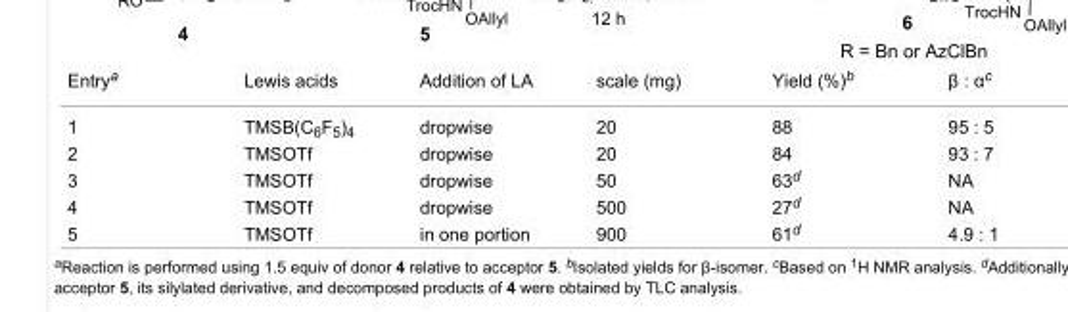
<table><tbody><tr><td>Entry<sup>a</sup></td><td>Lewis acids</td><td>Addition of LA</td><td>scale (mg)</td><td>Yield (%)<sup>b</sup></td><td>β : α<sup>c</sup></td></tr><tr><td>1</td><td>TMSB(C<sub>6</sub>F<sub>5</sub>)<sub>4</sub></td><td>dropwise</td><td>20</td><td>88</td><td>95 : 5</td></tr><tr><td>2</td><td>TMSOTf</td><td>dropwise</td><td>20</td><td>84</td><td>93 : 7</td></tr><tr><td>3</td><td>TMSOTf</td><td>dropwise</td><td>50</td><td>63<sup>d</sup></td><td>NA</td></tr><tr><td>4</td><td>TMSOTf</td><td>dropwise</td><td>500</td><td>27<sup>d</sup></td><td>NA</td></tr><tr><td>5</td><td>TMSOTf</td><td>in one portion</td><td>900</td><td>61<sup>d</sup></td><td>4.9 : 1</td></tr></tbody></table>